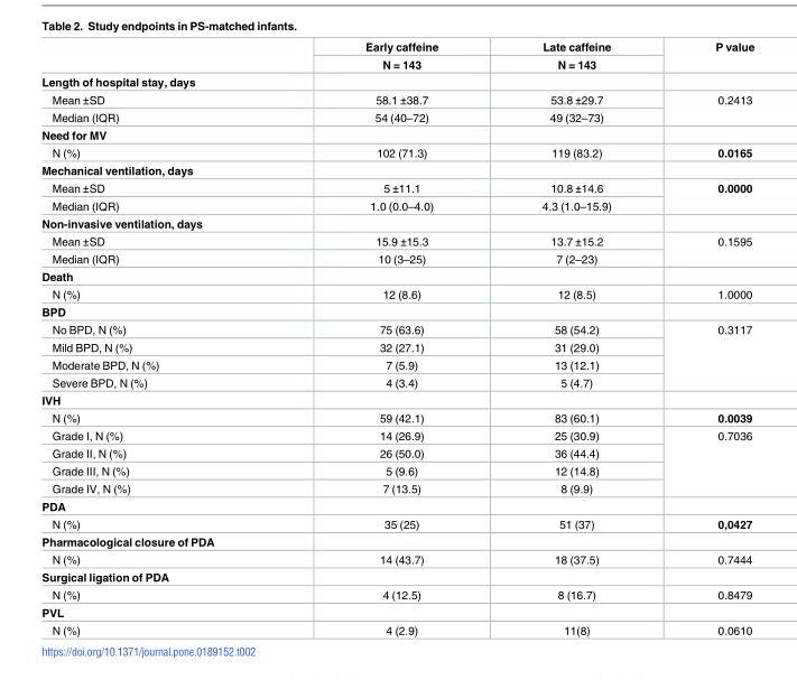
<table><thead><tr><td rowspan="2"></td><td rowspan="2">Early caffeine N = 143</td><td rowspan="2">Late caffeine N = 143</td><td rowspan="2">P value</td></tr><tr></tr></thead><tbody><tr><td colspan="4">Length of hospital stay, days</td></tr><tr><td>Mean ±SD</td><td>58.1 ±38.7</td><td>53.8 ±29.7</td><td rowspan="2">0.2413</td></tr><tr><td>Median (IQR)</td><td>54 (40–72)</td><td>49 (32–73)</td></tr><tr><td colspan="4">Need for MV</td></tr><tr><td>N (%)</td><td>102 (71.3)</td><td>119 (83.2)</td><td>0.0165</td></tr><tr><td colspan="4">Mechanical ventilation, days</td></tr><tr><td>Mean ±SD</td><td>5 ±11.1</td><td>10.8 ±14.6</td><td rowspan="2">0.0000</td></tr><tr><td>Median (IQR)</td><td>1.0 (0.0–4.0)</td><td>4.3 (1.0–15.9)</td></tr><tr><td colspan="4">Non-invasive ventilation, days</td></tr><tr><td>Mean ±SD</td><td>15.9 ±15.3</td><td>13.7 ±15.2</td><td rowspan="2">0.1595</td></tr><tr><td>Median (IQR)</td><td>10 (3–25)</td><td>7 (2–23)</td></tr><tr><td colspan="4">Death</td></tr><tr><td>N (%)</td><td>12 (8.6)</td><td>12 (8.5)</td><td>1.0000</td></tr><tr><td colspan="4">BPD</td></tr><tr><td>No BPD, N (%)</td><td>75 (63.6)</td><td>58 (54.2)</td><td rowspan="4">0.3117</td></tr><tr><td>Mild BPD, N (%)</td><td>32 (27.1)</td><td>31 (29.0)</td></tr><tr><td>Moderate BPD, N (%)</td><td>7 (5.9)</td><td>13 (12.1)</td></tr><tr><td>Severe BPD, N (%)</td><td>4 (3.4)</td><td>5 (4.7)</td></tr><tr><td colspan="4">IVH</td></tr><tr><td>N (%)</td><td>59 (42.1)</td><td>83 (60.1)</td><td>0.0039</td></tr><tr><td>Grade I, N (%)</td><td>14 (26.9)</td><td>25 (30.9)</td><td rowspan="4">0.7036</td></tr><tr><td>Grade II, N (%)</td><td>26 (50.0)</td><td>36 (44.4)</td></tr><tr><td>Grade III, N (%)</td><td>5 (9.6)</td><td>12 (14.8)</td></tr><tr><td>Grade IV, N (%)</td><td>7 (13.5)</td><td>8 (9.9)</td></tr><tr><td colspan="4">PDA</td></tr><tr><td>N (%)</td><td>35 (25)</td><td>51 (37)</td><td>0,0427</td></tr><tr><td colspan="4">Pharmacological closure of PDA</td></tr><tr><td>N (%)</td><td>14 (43.7)</td><td>18 (37.5)</td><td>0.7444</td></tr><tr><td colspan="4">Surgical ligation of PDA</td></tr><tr><td>N (%)</td><td>4 (12.5)</td><td>8 (16.7)</td><td>0.8479</td></tr><tr><td colspan="4">PVL</td></tr><tr><td>N (%)</td><td>4 (2.9)</td><td>11(8)</td><td>0.0610</td></tr></tbody></table>